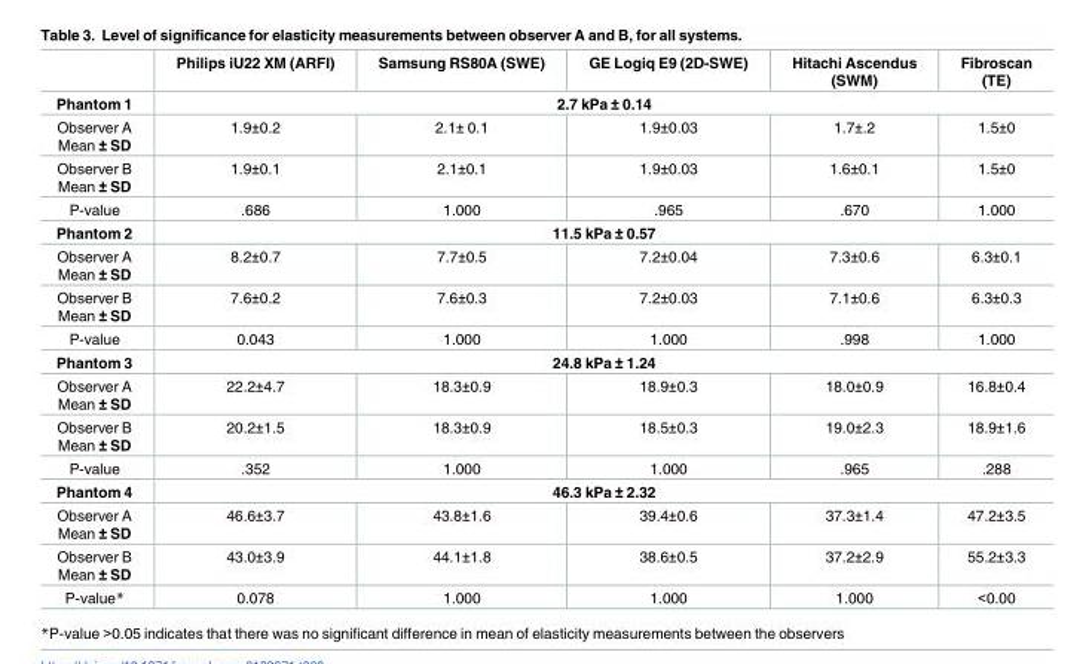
<table><thead><tr><td></td><td>Philips iU22 XM (ARFI)</td><td>Samsung RS80A (SWE)</td><td>GE Logiq E9 (2D-SWE)</td><td>Hitachi Ascendus (SWM)</td><td>Fibroscan (TE)</td></tr></thead><tbody><tr><td>Phantom 1</td><td colspan="5">2.7 kPa ± 0.14</td></tr><tr><td>Observer A Mean ± SD</td><td>1.9±0.2</td><td>2.1± 0.1</td><td>1.9±0.03</td><td>1.7±.2</td><td>1.5±0</td></tr><tr><td>Observer B Mean ± SD</td><td>1.9±0.1</td><td>2.1±0.1</td><td>1.9±0.03</td><td>1.6±0.1</td><td>1.5±0</td></tr><tr><td>P-value</td><td>.686</td><td>1.000</td><td>.965</td><td>.670</td><td>1.000</td></tr><tr><td>Phantom 2</td><td colspan="5">11.5 kPa ± 0.57</td></tr><tr><td>Observer A Mean ± SD</td><td>8.2±0.7</td><td>7.7±0.5</td><td>7.2±0.04</td><td>7.3±0.6</td><td>6.3±0.1</td></tr><tr><td>Observer B Mean ± SD</td><td>7.6±0.2</td><td>7.6±0.3</td><td>7.2±0.03</td><td>7.1±0.6</td><td>6.3±0.3</td></tr><tr><td>P-value</td><td>0.043</td><td>1.000</td><td>1.000</td><td>.998</td><td>1.000</td></tr><tr><td>Phantom 3</td><td colspan="5">24.8 kPa ± 1.24</td></tr><tr><td>Observer A Mean ± SD</td><td>22.2±4.7</td><td>18.3±0.9</td><td>18.9±0.3</td><td>18.0±0.9</td><td>16.8±0.4</td></tr><tr><td>Observer B Mean ± SD</td><td>20.2±1.5</td><td>18.3±0.9</td><td>18.5±0.3</td><td>19.0±2.3</td><td>18.9±1.6</td></tr><tr><td>P-value</td><td>.352</td><td>1.000</td><td>1.000</td><td>.965</td><td>.288</td></tr><tr><td>Phantom 4</td><td colspan="5">46.3 kPa ± 2.32</td></tr><tr><td>Observer A Mean ± SD</td><td>46.6±3.7</td><td>43.8±1.6</td><td>39.4±0.6</td><td>37.3±1.4</td><td>47.2±3.5</td></tr><tr><td>Observer B Mean ± SD</td><td>43.0±3.9</td><td>44.1±1.8</td><td>38.6±0.5</td><td>37.2±2.9</td><td>55.2±3.3</td></tr><tr><td>P-value*</td><td>0.078</td><td>1.000</td><td>1.000</td><td>1.000</td><td>&lt;0.00</td></tr></tbody></table>